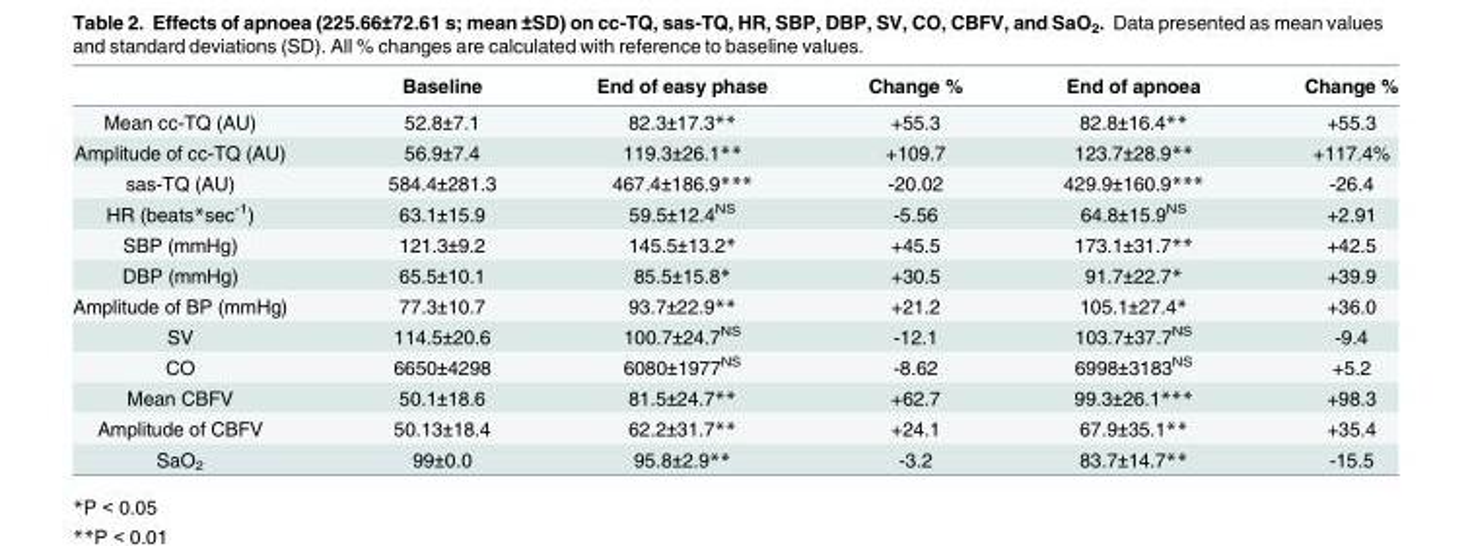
<table><thead><tr><td></td><td>Baseline</td><td>End of easy phase</td><td>Change %</td><td>End of apnoea</td><td>Change %</td></tr></thead><tbody><tr><td>Mean cc-TQ (AU)</td><td>52.8±7.1</td><td>82.3±17.3**</td><td>+55.3</td><td>82.8±16.4**</td><td>+55.3</td></tr><tr><td>Amplitude of cc-TQ (AU)</td><td>56.9±7.4</td><td>119.3±26.1**</td><td>+109.7</td><td>123.7±28.9**</td><td>+117.4%</td></tr><tr><td>sas-TQ (AU)</td><td>584.4±281.3</td><td>467.4±186.9***</td><td>-20.02</td><td>429.9±160.9***</td><td>-26.4</td></tr><tr><td>HR (beats*sec<sup>-1</sup>)</td><td>63.1±15.9</td><td>59.5±12.4<sup>NS</sup></td><td>-5.56</td><td>64.8±15.9<sup>NS</sup></td><td>+2.91</td></tr><tr><td>SBP (mmHg)</td><td>121.3±9.2</td><td>145.5±13.2*</td><td>+45.5</td><td>173.1±31.7**</td><td>+42.5</td></tr><tr><td>DBP (mmHg)</td><td>65.5±10.1</td><td>85.5±15.8*</td><td>+30.5</td><td>91.7±22.7*</td><td>+39.9</td></tr><tr><td>Amplitude of BP (mmHg)</td><td>77.3±10.7</td><td>93.7±22.9**</td><td>+21.2</td><td>105.1±27.4*</td><td>+36.0</td></tr><tr><td>SV</td><td>114.5±20.6</td><td>100.7±24.7<sup>NS</sup></td><td>-12.1</td><td>103.7±37.7<sup>NS</sup></td><td>-9.4</td></tr><tr><td>CO</td><td>6650±4298</td><td>6080±1977<sup>NS</sup></td><td>-8.62</td><td>6998±3183<sup>NS</sup></td><td>+5.2</td></tr><tr><td>Mean CBFV</td><td>50.1±18.6</td><td>81.5±24.7**</td><td>+62.7</td><td>99.3±26.1***</td><td>+98.3</td></tr><tr><td>Amplitude of CBFV</td><td>50.13±18.4</td><td>62.2±31.7**</td><td>+24.1</td><td>67.9±35.1**</td><td>+35.4</td></tr><tr><td>SaO<sub>2</sub></td><td>99±0.0</td><td>95.8±2.9**</td><td>-3.2</td><td>83.7±14.7**</td><td>-15.5</td></tr></tbody></table>